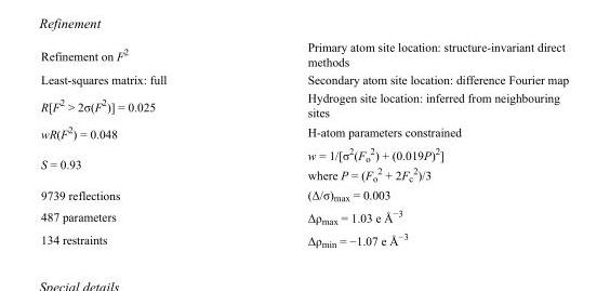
<table><tbody><tr><td>Refinement on F<sup>2</sup></td><td>Primary atom site location: structure-invariant direct methods</td></tr><tr><td>Least-squares matrix: full</td><td>Secondary atom site location: difference Fourier map</td></tr><tr><td>R[F<sup>2</sup> &gt; 2σ(F<sup>2</sup>)] = 0.025</td><td>Hydrogen site location: inferred from neighbouring sites</td></tr><tr><td>wR(F<sup>2</sup>) = 0.048</td><td>H-atom parameters constrained</td></tr><tr><td>S = 0.93</td><td>w = 1/[σ<sup>2</sup>(F<sub>o</sub> <sup>2</sup>) + (0.019P)<sup>2</sup>] where P = (F<sub>o</sub> <sup>2</sup> + 2F<sub>c</sub> <sup>2</sup>)/3</td></tr><tr><td>9739 reflections</td><td>(Δ/σ)<sub>max</sub> = 0.003</td></tr><tr><td>487 parameters</td><td>Δρ<sub>max</sub> = 1.03 e Å<sup>−3</sup></td></tr><tr><td>134 restraints</td><td>Δρ<sub>min</sub> = −1.07 e Å<sup>−3</sup></td></tr></tbody></table>